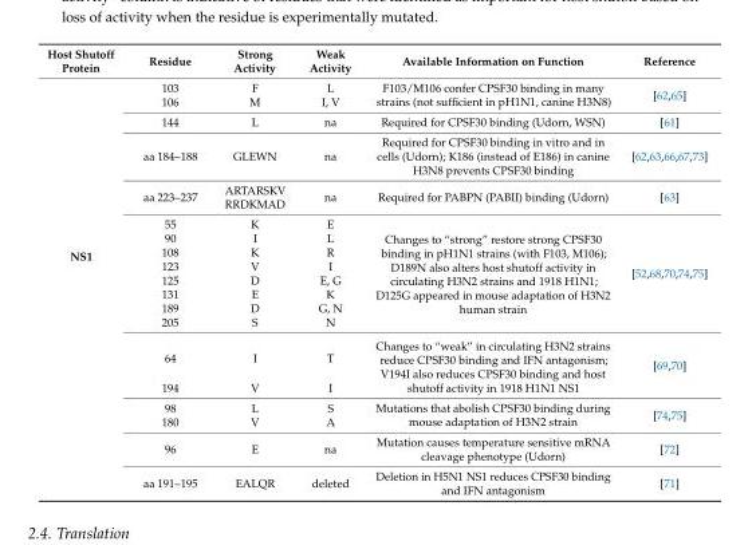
<table><thead><tr><td>Host Shutoff Protein</td><td>Residue</td><td>Strong Activity</td><td>Weak Activity</td><td>Available Information on Function</td><td>Reference</td></tr></thead><tbody><tr><td rowspan="19">NS1</td><td>103</td><td>F</td><td>L</td><td rowspan="2">F103/M106 confer CPSF30 binding in many strains (not sufficient in pH1N1, canine H3N8)</td><td rowspan="2">[62,65]</td></tr><tr><td>106</td><td>M</td><td>I, V</td></tr><tr><td>144</td><td>L</td><td>na</td><td>Required for CPSF30 binding (Udorn, WSN)</td><td>[61]</td></tr><tr><td>aa 184–188</td><td>GLEWN</td><td>na</td><td>Required for CPSF30 binding in vitro and in cells (Udorn); K186 (instead of E186) in canine H3N8 prevents CPSF30 binding</td><td>[62,63,66,67,73]</td></tr><tr><td>aa 223–237</td><td>ARTARSKV RRDKMAD</td><td>na</td><td>Required for PABPN (PABII) binding (Udorn)</td><td>[63]</td></tr><tr><td>55</td><td>K</td><td>E</td><td rowspan="8">Changes to “strong” restore strong CPSF30 binding in pH1N1 strains (with F103, M106); D189N also alters host shutoff activity in circulating H3N2 strains and 1918 H1N1; D125G appeared in mouse adaptation of H3N2 human strain</td><td rowspan="8">[52,68,70,74,75]</td></tr><tr><td>90</td><td>I</td><td>L</td></tr><tr><td>108</td><td>K</td><td>R</td></tr><tr><td>123</td><td>V</td><td>I</td></tr><tr><td>125</td><td>D</td><td>E, G</td></tr><tr><td>131</td><td>E</td><td>K</td></tr><tr><td>189</td><td>D</td><td>G, N</td></tr><tr><td>205</td><td>S</td><td>N</td></tr><tr><td>64</td><td>I</td><td>T</td><td rowspan="2">Changes to “weak” in circulating H3N2 strains reduce CPSF30 binding and IFN antagonism; V194I also reduces CPSF30 binding and host shutoff activity in 1918 H1N1 NS1</td><td rowspan="2">[69,70]</td></tr><tr><td>194</td><td>V</td><td>I</td></tr><tr><td>98</td><td>L</td><td>S</td><td rowspan="2">Mutations that abolish CPSF30 binding during mouse adaptation of H3N2 strain</td><td rowspan="2">[74,75]</td></tr><tr><td>180</td><td>V</td><td>A</td></tr><tr><td>96</td><td>E</td><td>na</td><td>Mutation causes temperature sensitive mRNA cleavage phenotype (Udorn)</td><td>[72]</td></tr><tr><td>aa 191–195</td><td>EALQR</td><td>deleted</td><td>Deletion in H5N1 NS1 reduces CPSF30 binding and IFN antagonism</td><td>[71]</td></tr></tbody></table>